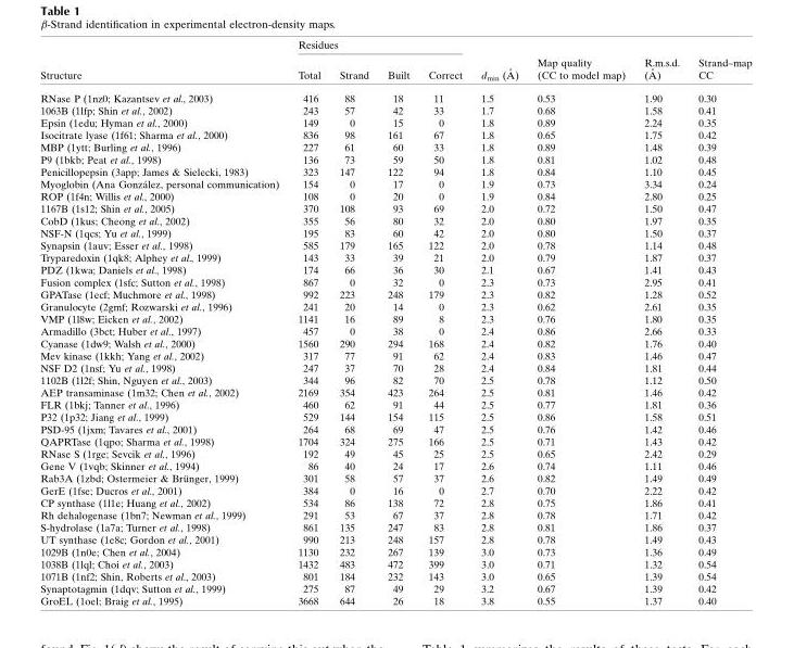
<table><thead><tr><td rowspan="2">Structure</td><td colspan="4">Residues</td><td rowspan="2">dmin (A˚ )</td><td rowspan="2">Map quality (CC to model map)</td><td rowspan="2">R.m.s.d. (A˚ )</td><td rowspan="2">Strand–map CC</td></tr><tr><td>Total</td><td>Strand</td><td>Built</td><td>Correct</td></tr></thead><tbody><tr><td>RNase P (1nz0; Kazantsev et al., 2003)</td><td>416</td><td>88</td><td>18</td><td>11</td><td>1.5</td><td>0.53</td><td>1.90</td><td>0.30</td></tr><tr><td>1063B (1lfp; Shin et al., 2002)</td><td>243</td><td>57</td><td>42</td><td>33</td><td>1.7</td><td>0.68</td><td>1.58</td><td>0.41</td></tr><tr><td>Epsin (1edu; Hyman et al., 2000)</td><td>149</td><td>0</td><td>15</td><td>0</td><td>1.8</td><td>0.89</td><td>2.24</td><td>0.35</td></tr><tr><td>Isocitrate lyase (1f61; Sharma et al., 2000)</td><td>836</td><td>98</td><td>161</td><td>67</td><td>1.8</td><td>0.65</td><td>1.75</td><td>0.42</td></tr><tr><td>MBP (1ytt; Burling et al., 1996)</td><td>227</td><td>61</td><td>60</td><td>33</td><td>1.8</td><td>0.89</td><td>1.48</td><td>0.39</td></tr><tr><td>P9 (1bkb; Peat et al., 1998)</td><td>136</td><td>73</td><td>59</td><td>50</td><td>1.8</td><td>0.81</td><td>1.02</td><td>0.48</td></tr><tr><td>Penicillopepsin (3app; James &amp; Sielecki, 1983)</td><td>323</td><td>147</td><td>122</td><td>94</td><td>1.8</td><td>0.84</td><td>1.10</td><td>0.45</td></tr><tr><td>Myoglobin (Ana Gonza´lez, personal communication)</td><td>154</td><td>0</td><td>17</td><td>0</td><td>1.9</td><td>0.73</td><td>3.34</td><td>0.24</td></tr><tr><td>ROP (1f4n; Willis et al., 2000)</td><td>108</td><td>0</td><td>20</td><td>0</td><td>1.9</td><td>0.84</td><td>2.80</td><td>0.25</td></tr><tr><td>1167B (1s12; Shin et al., 2005)</td><td>370</td><td>108</td><td>93</td><td>69</td><td>2.0</td><td>0.72</td><td>1.50</td><td>0.47</td></tr><tr><td>CobD (1kus; Cheong et al., 2002)</td><td>355</td><td>56</td><td>80</td><td>32</td><td>2.0</td><td>0.80</td><td>1.97</td><td>0.35</td></tr><tr><td>NSF-N (1qcs; Yu et al., 1999)</td><td>195</td><td>83</td><td>60</td><td>42</td><td>2.0</td><td>0.80</td><td>1.50</td><td>0.37</td></tr><tr><td>Synapsin (1auv; Esser et al., 1998)</td><td>585</td><td>179</td><td>165</td><td>122</td><td>2.0</td><td>0.78</td><td>1.14</td><td>0.48</td></tr><tr><td>Tryparedoxin (1qk8; Alphey et al., 1999)</td><td>143</td><td>33</td><td>39</td><td>21</td><td>2.0</td><td>0.79</td><td>1.87</td><td>0.37</td></tr><tr><td>PDZ (1kwa; Daniels et al., 1998)</td><td>174</td><td>66</td><td>36</td><td>30</td><td>2.1</td><td>0.67</td><td>1.41</td><td>0.43</td></tr><tr><td>Fusion complex (1sfc; Sutton et al., 1998)</td><td>867</td><td>0</td><td>32</td><td>0</td><td>2.3</td><td>0.73</td><td>2.95</td><td>0.41</td></tr><tr><td>GPATase (1ecf; Muchmore et al., 1998)</td><td>992</td><td>223</td><td>248</td><td>179</td><td>2.3</td><td>0.82</td><td>1.28</td><td>0.52</td></tr><tr><td>Granulocyte (2gmf; Rozwarski et al., 1996)</td><td>241</td><td>20</td><td>14</td><td>0</td><td>2.3</td><td>0.62</td><td>2.61</td><td>0.35</td></tr><tr><td>VMP (1l8w; Eicken et al., 2002)</td><td>1141</td><td>16</td><td>89</td><td>8</td><td>2.3</td><td>0.76</td><td>1.80</td><td>0.35</td></tr><tr><td>Armadillo (3bct; Huber et al., 1997)</td><td>457</td><td>0</td><td>38</td><td>0</td><td>2.4</td><td>0.86</td><td>2.66</td><td>0.33</td></tr><tr><td>Cyanase (1dw9; Walsh et al., 2000)</td><td>1560</td><td>290</td><td>294</td><td>168</td><td>2.4</td><td>0.82</td><td>1.76</td><td>0.40</td></tr><tr><td>Mev kinase (1kkh; Yang et al., 2002)</td><td>317</td><td>77</td><td>91</td><td>62</td><td>2.4</td><td>0.83</td><td>1.46</td><td>0.47</td></tr><tr><td>NSF D2 (1nsf; Yu et al., 1998)</td><td>247</td><td>37</td><td>70</td><td>28</td><td>2.4</td><td>0.84</td><td>1.81</td><td>0.44</td></tr><tr><td>1102B (1l2f; Shin, Nguyen et al., 2003)</td><td>344</td><td>96</td><td>82</td><td>70</td><td>2.5</td><td>0.78</td><td>1.12</td><td>0.50</td></tr><tr><td>AEP transaminase (1m32; Chen et al., 2002)</td><td>2169</td><td>354</td><td>423</td><td>264</td><td>2.5</td><td>0.81</td><td>1.46</td><td>0.42</td></tr><tr><td>FLR (1bkj; Tanner et al., 1996)</td><td>460</td><td>62</td><td>91</td><td>44</td><td>2.5</td><td>0.77</td><td>1.81</td><td>0.36</td></tr><tr><td>P32 (1p32; Jiang et al., 1999)</td><td>529</td><td>144</td><td>154</td><td>115</td><td>2.5</td><td>0.86</td><td>1.58</td><td>0.51</td></tr><tr><td>PSD-95 (1jxm; Tavares et al., 2001)</td><td>264</td><td>68</td><td>69</td><td>47</td><td>2.5</td><td>0.76</td><td>1.42</td><td>0.46</td></tr><tr><td>QAPRTase (1qpo; Sharma et al., 1998)</td><td>1704</td><td>324</td><td>275</td><td>166</td><td>2.5</td><td>0.71</td><td>1.43</td><td>0.42</td></tr><tr><td>RNase S (1rge; Sevcik et al., 1996)</td><td>192</td><td>49</td><td>45</td><td>25</td><td>2.5</td><td>0.65</td><td>2.42</td><td>0.29</td></tr><tr><td>Gene V (1vqb; Skinner et al., 1994)</td><td>86</td><td>40</td><td>24</td><td>17</td><td>2.6</td><td>0.74</td><td>1.11</td><td>0.46</td></tr><tr><td>Rab3A (1zbd; Ostermeier &amp; Bru¨nger, 1999)</td><td>301</td><td>58</td><td>57</td><td>37</td><td>2.6</td><td>0.82</td><td>1.49</td><td>0.49</td></tr><tr><td>GerE (1fse; Ducros et al., 2001)</td><td>384</td><td>0</td><td>16</td><td>0</td><td>2.7</td><td>0.70</td><td>2.22</td><td>0.42</td></tr><tr><td>CP synthase (1l1e; Huang et al., 2002)</td><td>534</td><td>86</td><td>138</td><td>72</td><td>2.8</td><td>0.75</td><td>1.86</td><td>0.41</td></tr><tr><td>Rh dehalogenase (1bn7; Newman et al., 1999)</td><td>291</td><td>53</td><td>67</td><td>37</td><td>2.8</td><td>0.78</td><td>1.71</td><td>0.42</td></tr><tr><td>S-hydrolase (1a7a; Turner et al., 1998)</td><td>861</td><td>135</td><td>247</td><td>83</td><td>2.8</td><td>0.81</td><td>1.86</td><td>0.37</td></tr><tr><td>UT synthase (1e8c; Gordon et al., 2001)</td><td>990</td><td>213</td><td>248</td><td>157</td><td>2.8</td><td>0.78</td><td>1.49</td><td>0.43</td></tr><tr><td>1029B (1n0e; Chen et al., 2004)</td><td>1130</td><td>232</td><td>267</td><td>139</td><td>3.0</td><td>0.73</td><td>1.36</td><td>0.49</td></tr><tr><td>1038B (1lql; Choi et al., 2003)</td><td>1432</td><td>483</td><td>472</td><td>399</td><td>3.0</td><td>0.71</td><td>1.32</td><td>0.54</td></tr><tr><td>1071B (1nf2; Shin, Roberts et al., 2003)</td><td>801</td><td>184</td><td>232</td><td>143</td><td>3.0</td><td>0.65</td><td>1.39</td><td>0.54</td></tr><tr><td>Synaptotagmin (1dqv; Sutton et al., 1999)</td><td>275</td><td>87</td><td>49</td><td>29</td><td>3.2</td><td>0.67</td><td>1.39</td><td>0.42</td></tr><tr><td>GroEL (1oel; Braig et al., 1995)</td><td>3668</td><td>644</td><td>26</td><td>18</td><td>3.8</td><td>0.55</td><td>1.37</td><td>0.40</td></tr></tbody></table>